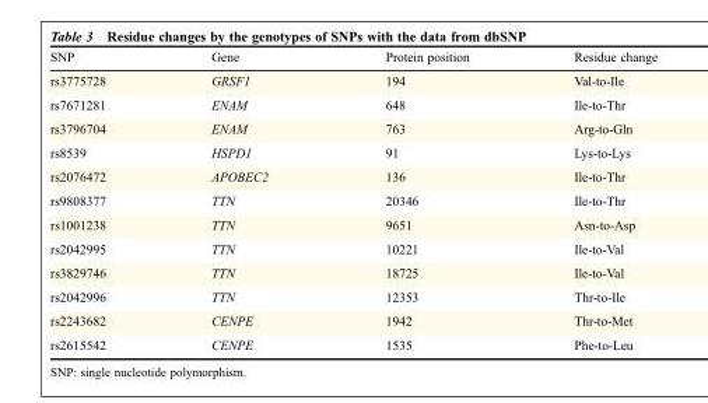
<table><thead><tr><td>SNP</td><td>Gene</td><td>Protein position</td><td>Residue change</td></tr></thead><tbody><tr><td>rs3775728</td><td>GRSF1</td><td>194</td><td>Val-to-Ile</td></tr><tr><td>rs7671281</td><td>ENAM</td><td>648</td><td>Ile-to-Thr</td></tr><tr><td>rs3796704</td><td>ENAM</td><td>763</td><td>Arg-to-Gln</td></tr><tr><td>rs8539</td><td>HSPD1</td><td>91</td><td>Lys-to-Lys</td></tr><tr><td>rs2076472</td><td>APOBEC2</td><td>136</td><td>Ile-to-Thr</td></tr><tr><td>rs9808377</td><td>TTN</td><td>20346</td><td>Ile-to-Thr</td></tr><tr><td>rs1001238</td><td>TTN</td><td>9651</td><td>Asn-to-Asp</td></tr><tr><td>rs2042995</td><td>TTN</td><td>10221</td><td>Ile-to-Val</td></tr><tr><td>rs3829746</td><td>TTN</td><td>18725</td><td>Ile-to-Val</td></tr><tr><td>rs2042996</td><td>TTN</td><td>12353</td><td>Thr-to-Ile</td></tr><tr><td>rs2243682</td><td>CENPE</td><td>1942</td><td>Thr-to-Met</td></tr><tr><td>rs2615542</td><td>CENPE</td><td>1535</td><td>Phe-to-Leu</td></tr></tbody></table>